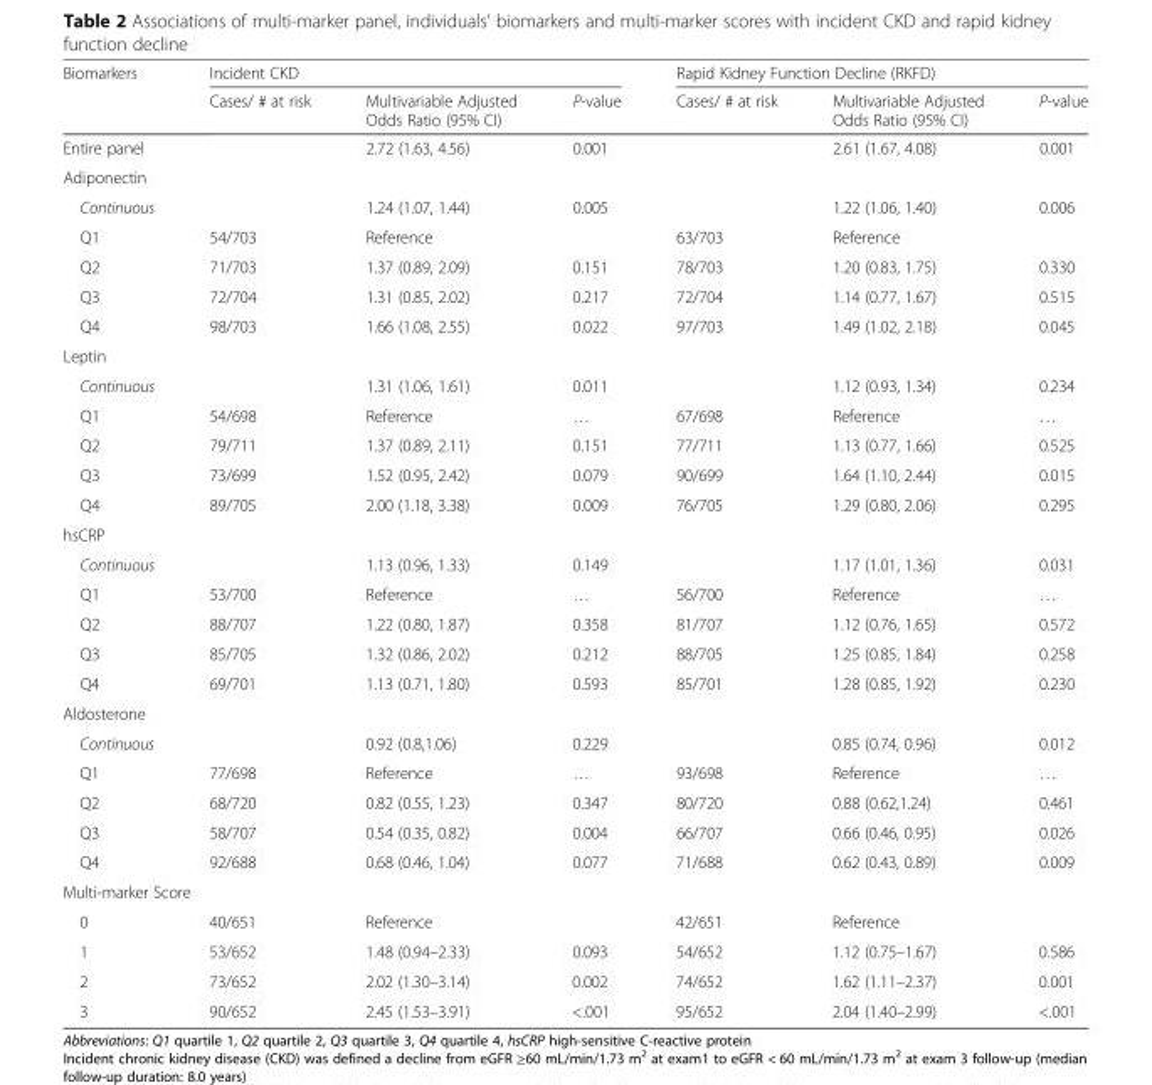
<table><thead><tr><td rowspan="2">Biomarkers</td><td colspan="3">Incident CKD</td><td colspan="3">Rapid Kidney Function Decline (RKFD)</td></tr><tr><td>Cases/ # at risk</td><td>Multivariable Adjusted Odds Ratio (95% CI)</td><td>P-value</td><td>Cases/ # at risk</td><td>Multivariable Adjusted Odds Ratio (95% CI)</td><td>P-value</td></tr></thead><tbody><tr><td>Entire panel</td><td></td><td>2.72 (1.63, 4.56)</td><td>0.001</td><td></td><td>2.61 (1.67, 4.08)</td><td>0.001</td></tr><tr><td colspan="7">Adiponectin</td></tr><tr><td>Continuous</td><td></td><td>1.24 (1.07, 1.44)</td><td>0.005</td><td></td><td>1.22 (1.06, 1.40)</td><td>0.006</td></tr><tr><td>Q1</td><td>54/703</td><td>Reference</td><td></td><td>63/703</td><td>Reference</td><td></td></tr><tr><td>Q2</td><td>71/703</td><td>1.37 (0.89, 2.09)</td><td>0.151</td><td>78/703</td><td>1.20 (0.83, 1.75)</td><td>0.330</td></tr><tr><td>Q3</td><td>72/704</td><td>1.31 (0.85, 2.02)</td><td>0.217</td><td>72/704</td><td>1.14 (0.77, 1.67)</td><td>0.515</td></tr><tr><td>Q4</td><td>98/703</td><td>1.66 (1.08, 2.55)</td><td>0.022</td><td>97/703</td><td>1.49 (1.02, 2.18)</td><td>0.045</td></tr><tr><td colspan="7">Leptin</td></tr><tr><td>Continuous</td><td></td><td>1.31 (1.06, 1.61)</td><td>0.011</td><td></td><td>1.12 (0.93, 1.34)</td><td>0.234</td></tr><tr><td>Q1</td><td>54/698</td><td>Reference</td><td>…</td><td>67/698</td><td>Reference</td><td>…</td></tr><tr><td>Q2</td><td>79/711</td><td>1.37 (0.89, 2.11)</td><td>0.151</td><td>77/711</td><td>1.13 (0.77, 1.66)</td><td>0.525</td></tr><tr><td>Q3</td><td>73/699</td><td>1.52 (0.95, 2.42)</td><td>0.079</td><td>90/699</td><td>1.64 (1.10, 2.44)</td><td>0.015</td></tr><tr><td>Q4</td><td>89/705</td><td>2.00 (1.18, 3.38)</td><td>0.009</td><td>76/705</td><td>1.29 (0.80, 2.06)</td><td>0.295</td></tr><tr><td colspan="7">hsCRP</td></tr><tr><td>Continuous</td><td></td><td>1.13 (0.96, 1.33)</td><td>0.149</td><td></td><td>1.17 (1.01, 1.36)</td><td>0.031</td></tr><tr><td>Q1</td><td>53/700</td><td>Reference</td><td>…</td><td>56/700</td><td>Reference</td><td>…</td></tr><tr><td>Q2</td><td>88/707</td><td>1.22 (0.80, 1.87)</td><td>0.358</td><td>81/707</td><td>1.12 (0.76, 1.65)</td><td>0.572</td></tr><tr><td>Q3</td><td>85/705</td><td>1.32 (0.86, 2.02)</td><td>0.212</td><td>88/705</td><td>1.25 (0.85, 1.84)</td><td>0.258</td></tr><tr><td>Q4</td><td>69/701</td><td>1.13 (0.71, 1.80)</td><td>0.593</td><td>85/701</td><td>1.28 (0.85, 1.92)</td><td>0.230</td></tr><tr><td colspan="7">Aldosterone</td></tr><tr><td>Continuous</td><td></td><td>0.92 (0.8,1.06)</td><td>0.229</td><td></td><td>0.85 (0.74, 0.96)</td><td>0.012</td></tr><tr><td>Q1</td><td>77/698</td><td>Reference</td><td>…</td><td>93/698</td><td>Reference</td><td>…</td></tr><tr><td>Q2</td><td>68/720</td><td>0.82 (0.55, 1.23)</td><td>0.347</td><td>80/720</td><td>0.88 (0.62,1.24)</td><td>0.461</td></tr><tr><td>Q3</td><td>58/707</td><td>0.54 (0.35, 0.82)</td><td>0.004</td><td>66/707</td><td>0.66 (0.46, 0.95)</td><td>0.026</td></tr><tr><td>Q4</td><td>92/688</td><td>0.68 (0.46, 1.04)</td><td>0.077</td><td>71/688</td><td>0.62 (0.43, 0.89)</td><td>0.009</td></tr><tr><td colspan="7">Multi-marker Score</td></tr><tr><td>0</td><td>40/651</td><td>Reference</td><td></td><td>42/651</td><td>Reference</td><td></td></tr><tr><td>1</td><td>53/652</td><td>1.48 (0.94–2.33)</td><td>0.093</td><td>54/652</td><td>1.12 (0.75–1.67)</td><td>0.586</td></tr><tr><td>2</td><td>73/652</td><td>2.02 (1.30–3.14)</td><td>0.002</td><td>74/652</td><td>1.62 (1.11–2.37)</td><td>0.001</td></tr><tr><td>3</td><td>90/652</td><td>2.45 (1.53–3.91)</td><td>&lt;.001</td><td>95/652</td><td>2.04 (1.40–2.99)</td><td>&lt;.001</td></tr></tbody></table>